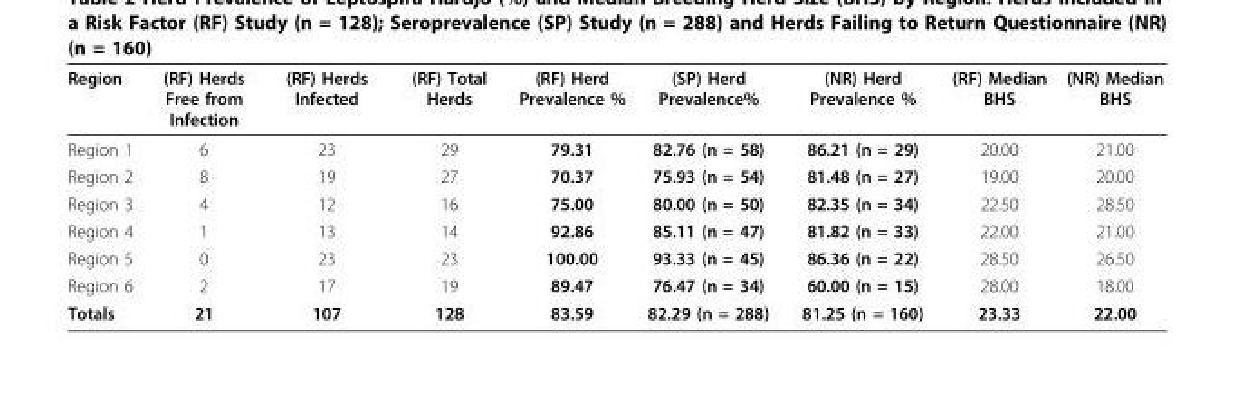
<table><thead><tr><td>Region</td><td>(RF) Herds Free from Infection</td><td>(RF) Herds Infected</td><td>(RF) Total Herds</td><td>(RF) Herd Prevalence %</td><td>(SP) Herd Prevalence%</td><td>(NR) Herd Prevalence %</td><td>(RF) Median BHS</td><td>(NR) Median BHS</td></tr></thead><tbody><tr><td>Region 1</td><td>6</td><td>23</td><td>29</td><td>79.31</td><td>82.76 (n = 58)</td><td>86.21 (n = 29)</td><td>20.00</td><td>21.00</td></tr><tr><td>Region 2</td><td>8</td><td>19</td><td>27</td><td>70.37</td><td>75.93 (n = 54)</td><td>81.48 (n = 27)</td><td>19.00</td><td>20.00</td></tr><tr><td>Region 3</td><td>4</td><td>12</td><td>16</td><td>75.00</td><td>80.00 (n = 50)</td><td>82.35 (n = 34)</td><td>22.50</td><td>28.50</td></tr><tr><td>Region 4</td><td>1</td><td>13</td><td>14</td><td>92.86</td><td>85.11 (n = 47)</td><td>81.82 (n = 33)</td><td>22.00</td><td>21.00</td></tr><tr><td>Region 5</td><td>0</td><td>23</td><td>23</td><td>100.00</td><td>93.33 (n = 45)</td><td>86.36 (n = 22)</td><td>28.50</td><td>26.50</td></tr><tr><td>Region 6</td><td>2</td><td>17</td><td>19</td><td>89.47</td><td>76.47 (n = 34)</td><td>60.00 (n = 15)</td><td>28.00</td><td>18.00</td></tr><tr><td>Totals</td><td>21</td><td>107</td><td>128</td><td>83.59</td><td>82.29 (n = 288)</td><td>81.25 (n = 160)</td><td>23.33</td><td>22.00</td></tr></tbody></table>